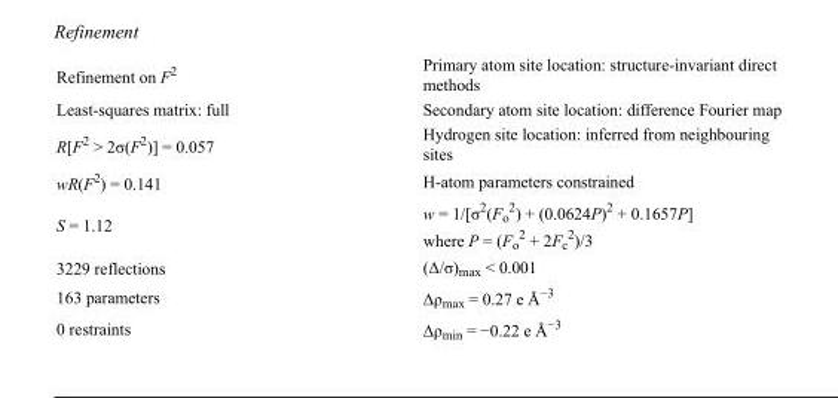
<table><tbody><tr><td>Refinement on F<sup>2</sup></td><td>Primary atom site location: structure-invariant direct methods</td></tr><tr><td>Least-squares matrix: full</td><td>Secondary atom site location: difference Fourier map</td></tr><tr><td>R[F<sup>2</sup> &gt; 2σ(F<sup>2</sup>)] = 0.057</td><td>Hydrogen site location: inferred from neighbouring sites</td></tr><tr><td>wR(F<sup>2</sup>) = 0.141</td><td>H-atom parameters constrained</td></tr><tr><td>S = 1.12</td><td>w = 1/[σ<sup>2</sup>(F<sub>o</sub> <sup>2</sup>) + (0.0624P)<sup>2</sup> + 0.1657P] where P = (F<sub>o</sub> <sup>2</sup> + 2F<sub>c</sub> <sup>2</sup>)/3</td></tr><tr><td>3229 reflections</td><td>(Δ/σ)<sub>max</sub> &lt; 0.001</td></tr><tr><td>163 parameters</td><td>Δρ<sub>max</sub> = 0.27 e Å<sup>−3</sup></td></tr><tr><td>0 restraints</td><td>Δρ<sub>min</sub> = −0.22 e Å<sup>−3</sup></td></tr></tbody></table>